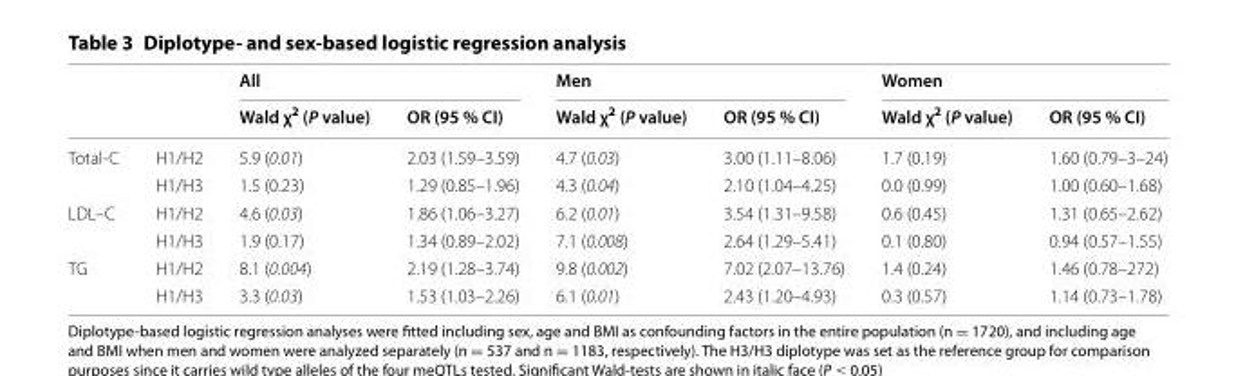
<table><thead><tr><td rowspan="2"></td><td rowspan="2"></td><td colspan="2">All</td><td colspan="2">Men</td><td colspan="2">Women</td></tr><tr><td>Wald χ<sup>2</sup> (P value)</td><td>OR (95 % CI)</td><td>Wald χ<sup>2</sup> (P value)</td><td>OR (95 % CI)</td><td>Wald χ<sup>2</sup> (P value)</td><td>OR (95 % CI)</td></tr></thead><tbody><tr><td rowspan="2">Total‑C</td><td>H1/H2</td><td>5.9 (0.01)</td><td>2.03 (1.59–3.59)</td><td>4.7 (0.03)</td><td>3.00 (1.11–8.06)</td><td>1.7 (0.19)</td><td>1.60 (0.79–3–24)</td></tr><tr><td>H1/H3</td><td>1.5 (0.23)</td><td>1.29 (0.85–1.96)</td><td>4.3 (0.04)</td><td>2.10 (1.04–4.25)</td><td>0.0 (0.99)</td><td>1.00 (0.60–1.68)</td></tr><tr><td rowspan="2">LDL–C</td><td>H1/H2</td><td>4.6 (0.03)</td><td>1.86 (1.06–3.27)</td><td>6.2 (0.01)</td><td>3.54 (1.31–9.58)</td><td>0.6 (0.45)</td><td>1.31 (0.65–2.62)</td></tr><tr><td>H1/H3</td><td>1.9 (0.17)</td><td>1.34 (0.89–2.02)</td><td>7.1 (0.008)</td><td>2.64 (1.29–5.41)</td><td>0.1 (0.80)</td><td>0.94 (0.57–1.55)</td></tr><tr><td rowspan="2">TG</td><td>H1/H2</td><td>8.1 (0.004)</td><td>2.19 (1.28–3.74)</td><td>9.8 (0.002)</td><td>7.02 (2.07–13.76)</td><td>1.4 (0.24)</td><td>1.46 (0.78–272)</td></tr><tr><td>H1/H3</td><td>3.3 (0.03)</td><td>1.53 (1.03–2.26)</td><td>6.1 (0.01)</td><td>2.43 (1.20–4.93)</td><td>0.3 (0.57)</td><td>1.14 (0.73–1.78)</td></tr></tbody></table>